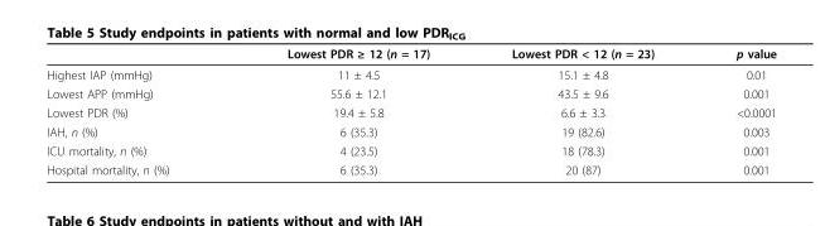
<table><thead><tr><td></td><td>Lowest PDR ≥ 12 (n = 17)</td><td>Lowest PDR &lt; 12 (n = 23)</td><td>p value</td></tr></thead><tbody><tr><td>Highest IAP (mmHg)</td><td>11 ± 4.5</td><td>15.1 ± 4.8</td><td>0.01</td></tr><tr><td>Lowest APP (mmHg)</td><td>55.6 ± 12.1</td><td>43.5 ± 9.6</td><td>0.001</td></tr><tr><td>Lowest PDR (%)</td><td>19.4 ± 5.8</td><td>6.6 ± 3.3</td><td>&lt;0.0001</td></tr><tr><td>IAH, n (%)</td><td>6 (35.3)</td><td>19 (82.6)</td><td>0.003</td></tr><tr><td>ICU mortality, n (%)</td><td>4 (23.5)</td><td>18 (78.3)</td><td>0.001</td></tr><tr><td>Hospital mortality, n (%)</td><td>6 (35.3)</td><td>20 (87)</td><td>0.001</td></tr></tbody></table>